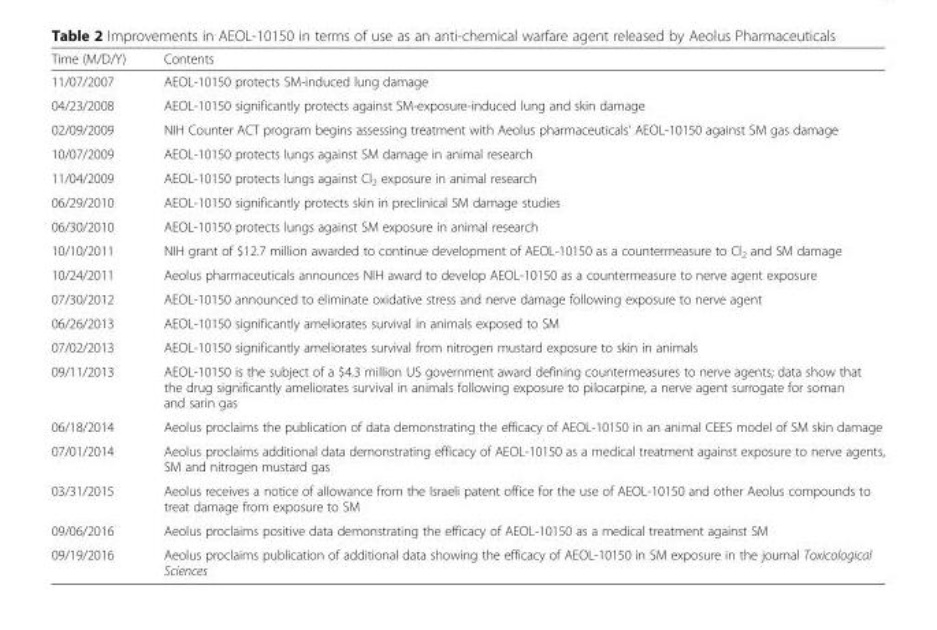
<table><thead><tr><td>Time (M/D/Y)</td><td>Contents</td></tr></thead><tbody><tr><td>11/07/2007</td><td>AEOL-10150 protects SM-induced lung damage</td></tr><tr><td>04/23/2008</td><td>AEOL-10150 significantly protects against SM-exposure-induced lung and skin damage</td></tr><tr><td>02/09/2009</td><td>NIH Counter ACT program begins assessing treatment with Aeolus pharmaceuticals’ AEOL-10150 against SM gas damage</td></tr><tr><td>10/07/2009</td><td>AEOL-10150 protects lungs against SM damage in animal research</td></tr><tr><td>11/04/2009</td><td>AEOL-10150 protects lungs against Cl<sub>2</sub> exposure in animal research</td></tr><tr><td>06/29/2010</td><td>AEOL-10150 significantly protects skin in preclinical SM damage studies</td></tr><tr><td>06/30/2010</td><td>AEOL-10150 protects lungs against SM exposure in animal research</td></tr><tr><td>10/10/2011</td><td>NIH grant of $12.7 million awarded to continue development of AEOL-10150 as a countermeasure to Cl<sub>2</sub> and SM damage</td></tr><tr><td>10/24/2011</td><td>Aeolus pharmaceuticals announces NIH award to develop AEOL-10150 as a countermeasure to nerve agent exposure</td></tr><tr><td>07/30/2012</td><td>AEOL-10150 announced to eliminate oxidative stress and nerve damage following exposure to nerve agent</td></tr><tr><td>06/26/2013</td><td>AEOL-10150 significantly ameliorates survival in animals exposed to SM</td></tr><tr><td>07/02/2013</td><td>AEOL-10150 significantly ameliorates survival from nitrogen mustard exposure to skin in animals</td></tr><tr><td>09/11/2013</td><td>AEOL-10150 is the subject of a $4.3 million US government award defining countermeasures to nerve agents; data show that the drug significantly ameliorates survival in animals following exposure to pilocarpine, a nerve agent surrogate for soman and sarin gas</td></tr><tr><td>06/18/2014</td><td>Aeolus proclaims the publication of data demonstrating the efficacy of AEOL-10150 in an animal CEES model of SM skin damage</td></tr><tr><td>07/01/2014</td><td>Aeolus proclaims additional data demonstrating efficacy of AEOL-10150 as a medical treatment against exposure to nerve agents, SM and nitrogen mustard gas</td></tr><tr><td>03/31/2015</td><td>Aeolus receives a notice of allowance from the Israeli patent office for the use of AEOL-10150 and other Aeolus compounds to treat damage from exposure to SM</td></tr><tr><td>09/06/2016</td><td>Aeolus proclaims positive data demonstrating the efficacy of AEOL-10150 as a medical treatment against SM</td></tr><tr><td>09/19/2016</td><td>Aeolus proclaims publication of additional data showing the efficacy of AEOL-10150 in SM exposure in the journal Toxicological Sciences</td></tr></tbody></table>